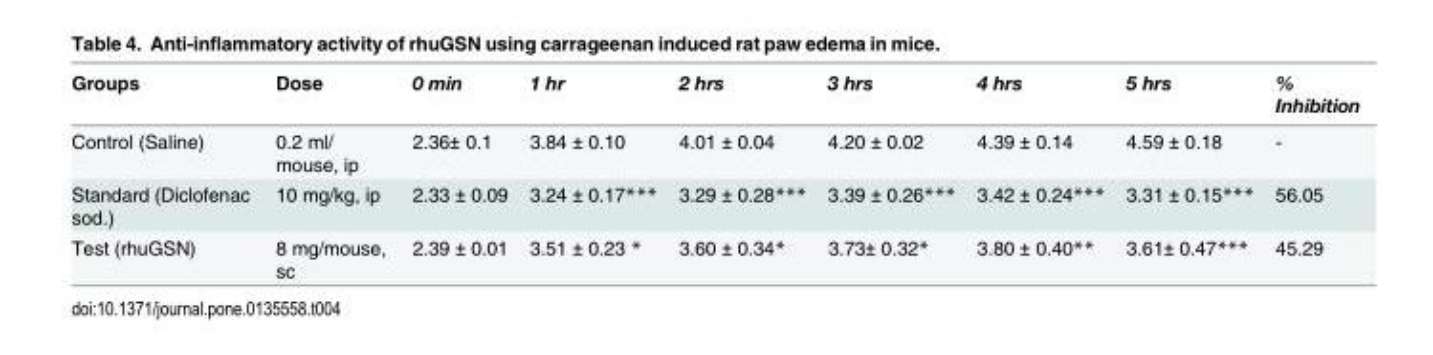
<table><thead><tr><td>Groups</td><td>Dose</td><td>0 min</td><td>1 hr</td><td>2 hrs</td><td>3 hrs</td><td>4 hrs</td><td>5 hrs</td><td>% Inhibition</td></tr></thead><tbody><tr><td>Control (Saline)</td><td>0.2 ml/ mouse, ip</td><td>2.36± 0.1</td><td>3.84 ± 0.10</td><td>4.01 ± 0.04</td><td>4.20 ± 0.02</td><td>4.39 ± 0.14</td><td>4.59 ± 0.18</td><td>-</td></tr><tr><td>Standard (Diclofenac sod.)</td><td>10 mg/kg, ip</td><td>2.33 ± 0.09</td><td>3.24 ± 0.17***</td><td>3.29 ± 0.28***</td><td>3.39 ± 0.26***</td><td>3.42 ± 0.24***</td><td>3.31 ± 0.15***</td><td>56.05</td></tr><tr><td>Test (rhuGSN)</td><td>8 mg/mouse, sc</td><td>2.39 ± 0.01</td><td>3.51 ± 0.23 *</td><td>3.60 ± 0.34*</td><td>3.73± 0.32*</td><td>3.80 ± 0.40**</td><td>3.61± 0.47***</td><td>45.29</td></tr></tbody></table>